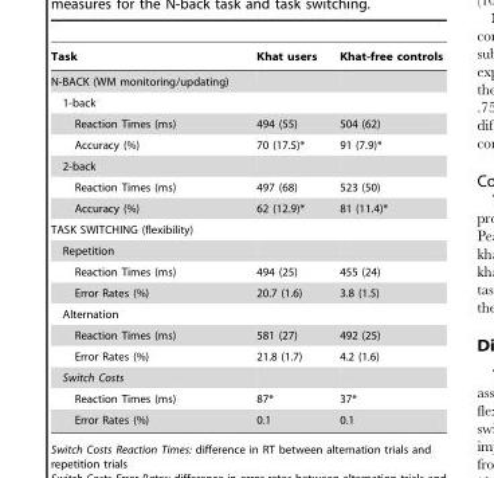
<table><thead><tr><td>Task</td><td>Khat users</td><td>Khat-free controls</td></tr></thead><tbody><tr><td colspan="3">N-BACK (WM monitoring/updating)</td></tr><tr><td colspan="3">1-back</td></tr><tr><td>Reaction Times (ms)</td><td>494 (55)</td><td>504 (62)</td></tr><tr><td>Accuracy (%)</td><td>70 (17.5)*</td><td>91 (7.9)*</td></tr><tr><td colspan="3">2-back</td></tr><tr><td>Reaction Times (ms)</td><td>497 (68)</td><td>523 (50)</td></tr><tr><td>Accuracy (%)</td><td>62 (12.9)*</td><td>81 (11.4)*</td></tr><tr><td colspan="3">TASK SWITCHING (flexibility)</td></tr><tr><td colspan="3">Repetition</td></tr><tr><td>Reaction Times (ms)</td><td>494 (25)</td><td>455 (24)</td></tr><tr><td>Error Rates (%)</td><td>20.7 (1.6)</td><td>3.8 (1.5)</td></tr><tr><td colspan="3">Alternation</td></tr><tr><td>Reaction Times (ms)</td><td>581 (27)</td><td>492 (25)</td></tr><tr><td>Error Rates (%)</td><td>21.8 (1.7)</td><td>4.2 (1.6)</td></tr><tr><td colspan="3">Switch Costs</td></tr><tr><td>Reaction Times (ms)</td><td>87*</td><td>37*</td></tr><tr><td>Error Rates (%)</td><td>0.1</td><td>0.1</td></tr></tbody></table>